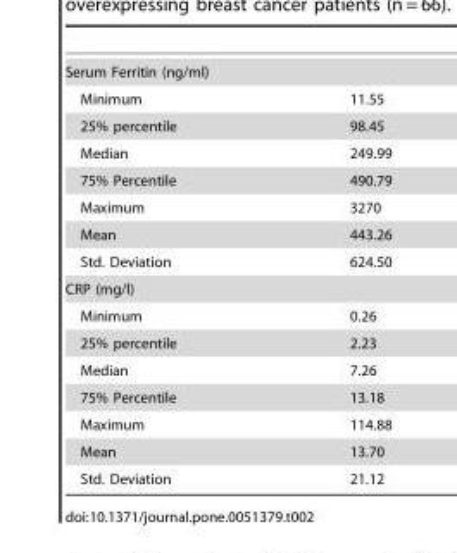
<table><tbody><tr><td colspan="2">Serum Ferritin (ng/ml)</td></tr><tr><td>Minimum</td><td>11.55</td></tr><tr><td>25% percentile</td><td>98.45</td></tr><tr><td>Median</td><td>249.99</td></tr><tr><td>75% Percentile</td><td>490.79</td></tr><tr><td>Maximum</td><td>3270</td></tr><tr><td>Mean</td><td>443.26</td></tr><tr><td>Std. Deviation</td><td>624.50</td></tr><tr><td colspan="2">CRP (mg/l)</td></tr><tr><td>Minimum</td><td>0.26</td></tr><tr><td>25% percentile</td><td>2.23</td></tr><tr><td>Median</td><td>7.26</td></tr><tr><td>75% Percentile</td><td>13.18</td></tr><tr><td>Maximum</td><td>114.88</td></tr><tr><td>Mean</td><td>13.70</td></tr><tr><td>Std. Deviation</td><td>21.12</td></tr></tbody></table>